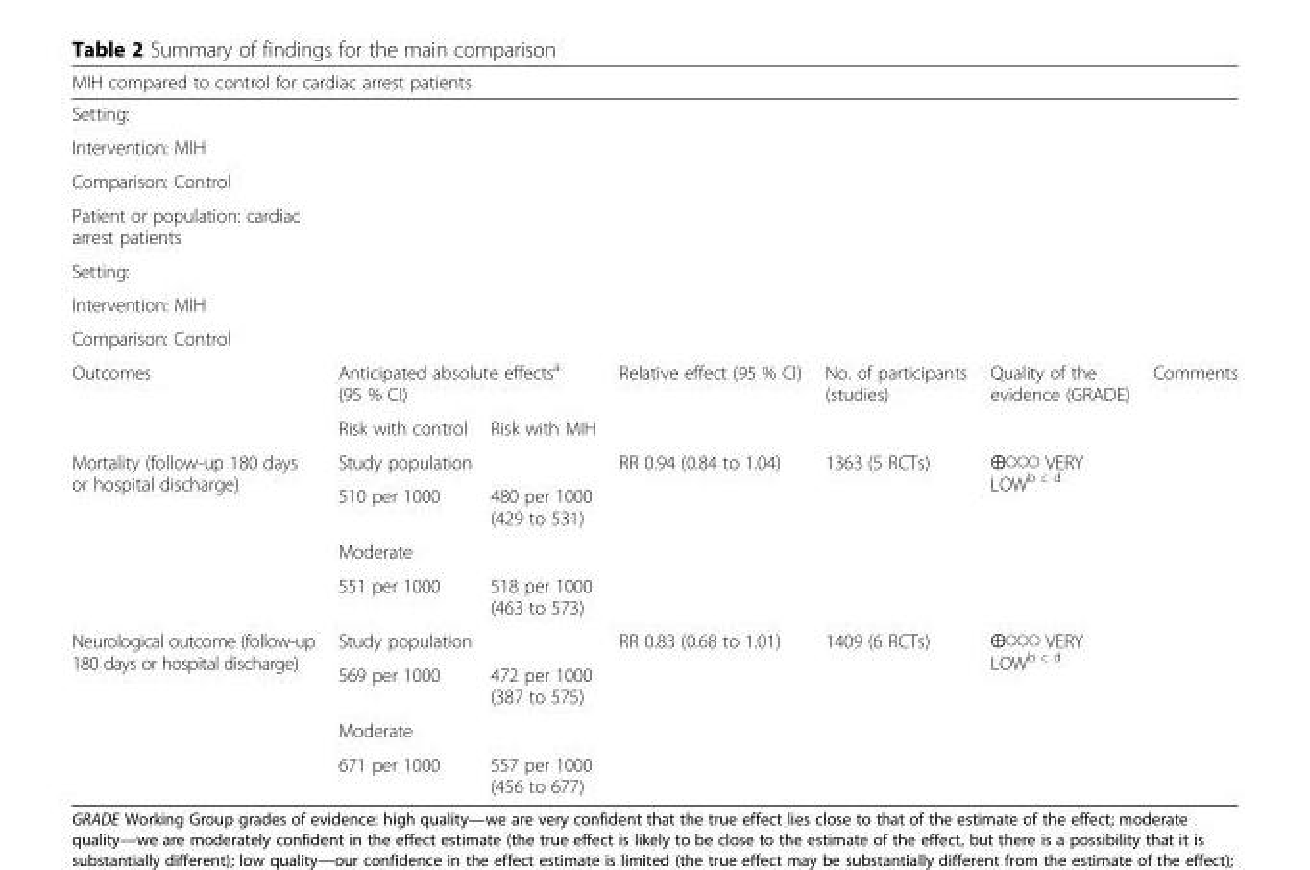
<table><thead><tr><td colspan="7">MIH compared to control for cardiac arrest patients</td></tr></thead><tbody><tr><td colspan="7">Setting:</td></tr><tr><td colspan="7">Intervention: MIH</td></tr><tr><td colspan="7">Comparison: Control</td></tr><tr><td colspan="7">Patient or population: cardiac arrest patients</td></tr><tr><td colspan="7">Setting:</td></tr><tr><td colspan="7">Intervention: MIH</td></tr><tr><td colspan="7">Comparison: Control</td></tr><tr><td rowspan="2">Outcomes</td><td colspan="2">Anticipated absolute effects<sup>a</sup> (95 % CI)</td><td rowspan="2">Relative effect (95 % CI)</td><td rowspan="2">No. of participants (studies)</td><td rowspan="2">Quality of the evidence (GRADE)</td><td rowspan="2">Comments</td></tr><tr><td>Risk with control</td><td>Risk with MIH</td></tr><tr><td rowspan="4">Mortality (follow-up 180 days or hospital discharge)</td><td colspan="2">Study population</td><td rowspan="4">RR 0.94 (0.84 to 1.04)</td><td rowspan="4">1363 (5 RCTs)</td><td rowspan="4">⨁◯◯◯ VERY LOW<sup>b c d</sup></td><td rowspan="4"></td></tr><tr><td>510 per 1000</td><td>480 per 1000 (429 to 531)</td></tr><tr><td colspan="2">Moderate</td></tr><tr><td>551 per 1000</td><td>518 per 1000 (463 to 573)</td></tr><tr><td rowspan="4">Neurological outcome (follow-up 180 days or hospital discharge)</td><td colspan="2">Study population</td><td rowspan="4">RR 0.83 (0.68 to 1.01)</td><td rowspan="4">1409 (6 RCTs)</td><td rowspan="4">⨁◯◯◯ VERY LOW<sup>b c d</sup></td><td rowspan="4"></td></tr><tr><td>569 per 1000</td><td>472 per 1000 (387 to 575)</td></tr><tr><td colspan="2">Moderate</td></tr><tr><td>671 per 1000</td><td>557 per 1000 (456 to 677)</td></tr></tbody></table>